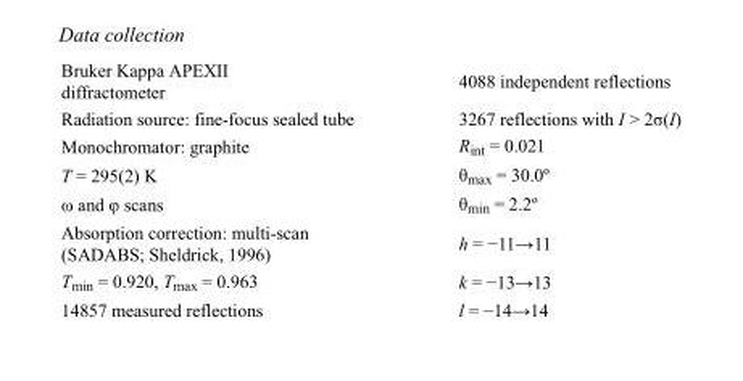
<table><tbody><tr><td>Bruker Kappa APEXII diffractometer</td><td>4088 independent reflections</td></tr><tr><td>Radiation source: fine-focus sealed tube</td><td>3267 reflections with I &gt; 2σ(I)</td></tr><tr><td>Monochromator: graphite</td><td>R<sub>int</sub> = 0.021</td></tr><tr><td>T = 295(2) K</td><td>θ<sub>max</sub> = 30.0º</td></tr><tr><td>ω and φ scans</td><td>θ<sub>min</sub> = 2.2º</td></tr><tr><td>Absorption correction: multi-scan (SADABS; Sheldrick, 1996)</td><td>h = −11→11</td></tr><tr><td>T<sub>min</sub> = 0.920, T<sub>max</sub> = 0.963</td><td>k = −13→13</td></tr><tr><td>14857 measured reflections</td><td>l = −14→14</td></tr></tbody></table>